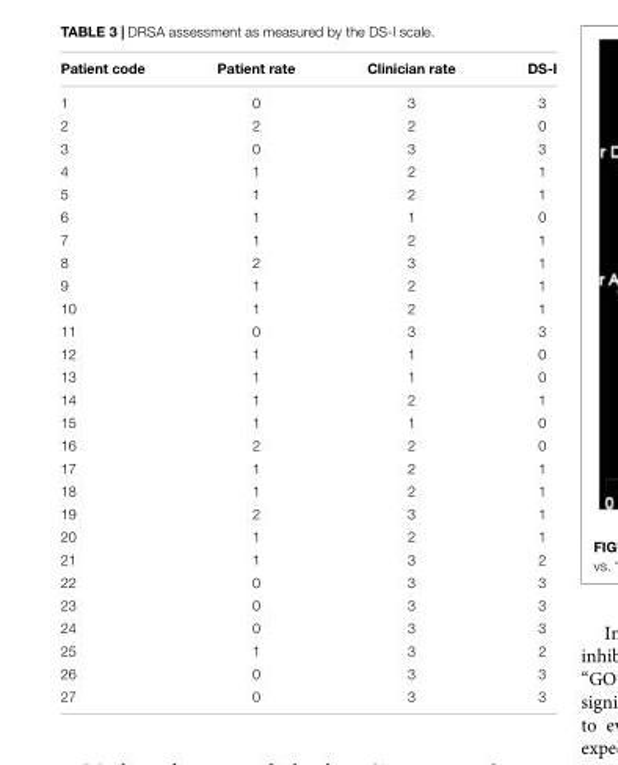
<table><thead><tr><td>Patient code</td><td>Patient rate</td><td>Clinician rate</td><td>DS-I</td></tr></thead><tbody><tr><td>1</td><td>0</td><td>3</td><td>3</td></tr><tr><td>2</td><td>2</td><td>2</td><td>0</td></tr><tr><td>3</td><td>0</td><td>3</td><td>3</td></tr><tr><td>4</td><td>1</td><td>2</td><td>1</td></tr><tr><td>5</td><td>1</td><td>2</td><td>1</td></tr><tr><td>6</td><td>1</td><td>1</td><td>0</td></tr><tr><td>7</td><td>1</td><td>2</td><td>1</td></tr><tr><td>8</td><td>2</td><td>3</td><td>1</td></tr><tr><td>9</td><td>1</td><td>2</td><td>1</td></tr><tr><td>10</td><td>1</td><td>2</td><td>1</td></tr><tr><td>11</td><td>0</td><td>3</td><td>3</td></tr><tr><td>12</td><td>1</td><td>1</td><td>0</td></tr><tr><td>13</td><td>1</td><td>1</td><td>0</td></tr><tr><td>14</td><td>1</td><td>2</td><td>1</td></tr><tr><td>15</td><td>1</td><td>1</td><td>0</td></tr><tr><td>16</td><td>2</td><td>2</td><td>0</td></tr><tr><td>17</td><td>1</td><td>2</td><td>1</td></tr><tr><td>18</td><td>1</td><td>2</td><td>1</td></tr><tr><td>19</td><td>2</td><td>3</td><td>1</td></tr><tr><td>20</td><td>1</td><td>2</td><td>1</td></tr><tr><td>21</td><td>1</td><td>3</td><td>2</td></tr><tr><td>22</td><td>0</td><td>3</td><td>3</td></tr><tr><td>23</td><td>0</td><td>3</td><td>3</td></tr><tr><td>24</td><td>0</td><td>3</td><td>3</td></tr><tr><td>25</td><td>1</td><td>3</td><td>2</td></tr><tr><td>26</td><td>0</td><td>3</td><td>3</td></tr><tr><td>27</td><td>0</td><td>3</td><td>3</td></tr></tbody></table>